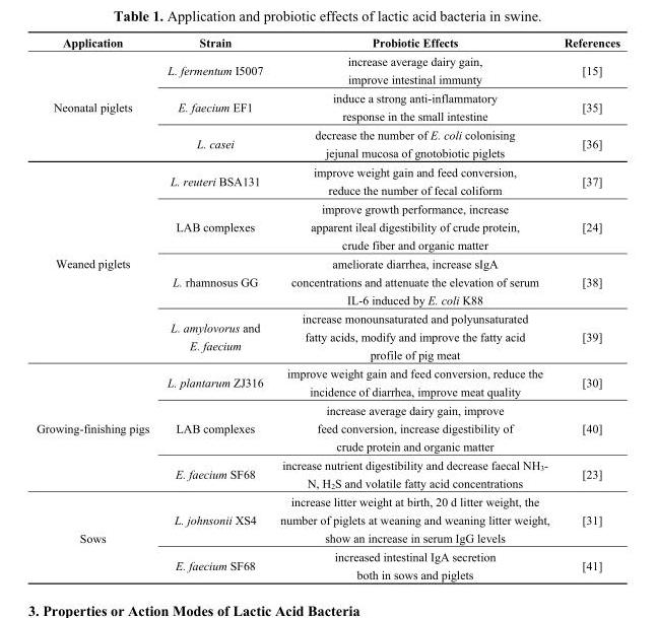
<table><thead><tr><td>Application</td><td>Strain</td><td>Probiotic Effects</td><td>References</td></tr></thead><tbody><tr><td rowspan="3">Neonatal piglets</td><td>L. fermentum I5007</td><td>increase average dairy gain, improve intestinal immunty</td><td>[15]</td></tr><tr><td>E. faecium EF1</td><td>induce a strong anti-inflammatory response in the small intestine</td><td>[35]</td></tr><tr><td>L. casei</td><td>decrease the number of E. coli colonising jejunal mucosa of gnotobiotic piglets</td><td>[36]</td></tr><tr><td rowspan="4">Weaned piglets</td><td>L. reuteri BSA131</td><td>improve weight gain and feed conversion, reduce the number of fecal coliform</td><td>[37]</td></tr><tr><td>LAB complexes</td><td>improve growth performance, increase apparent ileal digestibility of crude protein, crude fiber and organic matter</td><td>[24]</td></tr><tr><td>L. rhamnosus GG</td><td>ameliorate diarrhea, increase sIgA concentrations and attenuate the elevation of serum IL-6 induced by E. coli K88</td><td>[38]</td></tr><tr><td>L. amylovorus and E. faecium</td><td>increase monounsaturated and polyunsaturated fatty acids, modify and improve the fatty acid profile of pig meat</td><td>[39]</td></tr><tr><td rowspan="3">Growing-finishing pigs</td><td>L. plantarum ZJ316</td><td>improve weight gain and feed conversion, reduce the incidence of diarrhea, improve meat quality</td><td>[30]</td></tr><tr><td>LAB complexes</td><td>increase average dairy gain, improve feed conversion, increase digestibility of crude protein and organic matter</td><td>[40]</td></tr><tr><td>E. faecium SF68</td><td>increase nutrient digestibility and decrease faecal NH<sub>3</sub>- N, H<sub>2</sub>S and volatile fatty acid concentrations</td><td>[23]</td></tr><tr><td rowspan="2">Sows</td><td>L. johnsonii XS4</td><td>increase litter weight at birth, 20 d litter weight, the number of piglets at weaning and weaning litter weight, show an increase in serum IgG levels</td><td>[31]</td></tr><tr><td>E. faecium SF68</td><td>increased intestinal IgA secretion both in sows and piglets</td><td>[41]</td></tr></tbody></table>